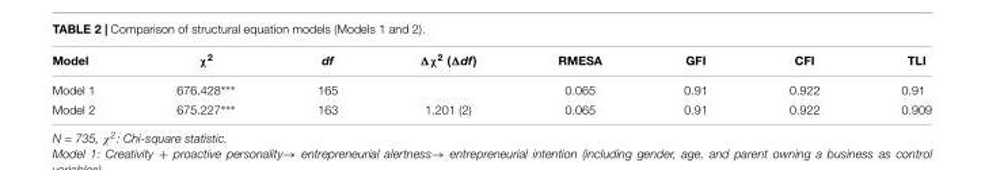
<table><thead><tr><td>Model</td><td>χ<sup>2</sup></td><td>df</td><td>Δχ<sup>2</sup> (Δdf)</td><td>RMESA</td><td>GFI</td><td>CFI</td><td>TLI</td></tr></thead><tbody><tr><td>Model 1</td><td>676.428∗∗∗</td><td>165</td><td></td><td>0.065</td><td>0.91</td><td>0.922</td><td>0.91</td></tr><tr><td>Model 2</td><td>675.227∗∗∗</td><td>163</td><td>1.201 (2)</td><td>0.065</td><td>0.91</td><td>0.922</td><td>0.909</td></tr></tbody></table>